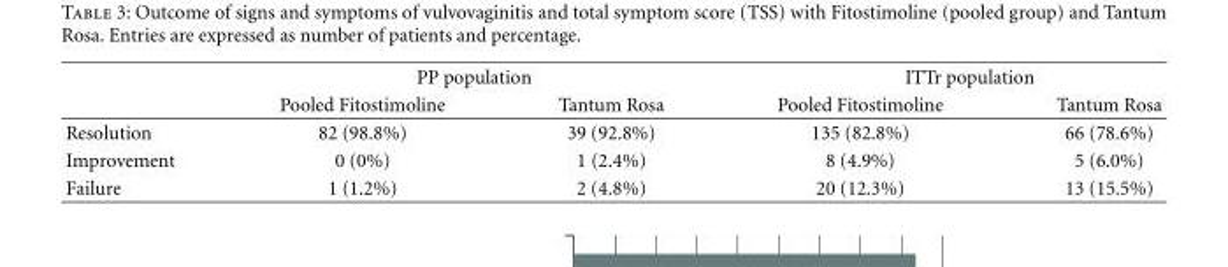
<table><thead><tr><td rowspan="2"></td><td colspan="2">PP population</td><td colspan="2">ITTr population</td></tr><tr><td>Pooled Fitostimoline</td><td>Tantum Rosa</td><td>Pooled Fitostimoline</td><td>Tantum Rosa</td></tr></thead><tbody><tr><td>Resolution</td><td>82 (98.8%)</td><td>39 (92.8%)</td><td>135 (82.8%)</td><td>66 (78.6%)</td></tr><tr><td>Improvement</td><td>0 (0%)</td><td>1 (2.4%)</td><td>8 (4.9%)</td><td>5 (6.0%)</td></tr><tr><td>Failure</td><td>1 (1.2%)</td><td>2 (4.8%)</td><td>20 (12.3%)</td><td>13 (15.5%)</td></tr></tbody></table>